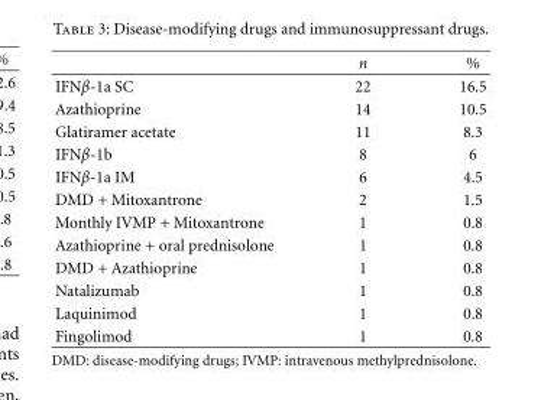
<table><thead><tr><td></td><td>n</td><td>%</td></tr></thead><tbody><tr><td>IFNβ-1a SC</td><td>22</td><td>16.5</td></tr><tr><td>Azathioprine</td><td>14</td><td>10.5</td></tr><tr><td>Glatiramer acetate</td><td>11</td><td>8.3</td></tr><tr><td>IFNβ-1b</td><td>8</td><td>6</td></tr><tr><td>IFNβ-1a IM</td><td>6</td><td>4.5</td></tr><tr><td>DMD + Mitoxantrone</td><td>2</td><td>1.5</td></tr><tr><td>Monthly IVMP + Mitoxantrone</td><td>1</td><td>0.8</td></tr><tr><td>Azathioprine + oral prednisolone</td><td>1</td><td>0.8</td></tr><tr><td>DMD + Azathioprine</td><td>1</td><td>0.8</td></tr><tr><td>Natalizumab</td><td>1</td><td>0.8</td></tr><tr><td>Laquinimod</td><td>1</td><td>0.8</td></tr><tr><td>Fingolimod</td><td>1</td><td>0.8</td></tr></tbody></table>